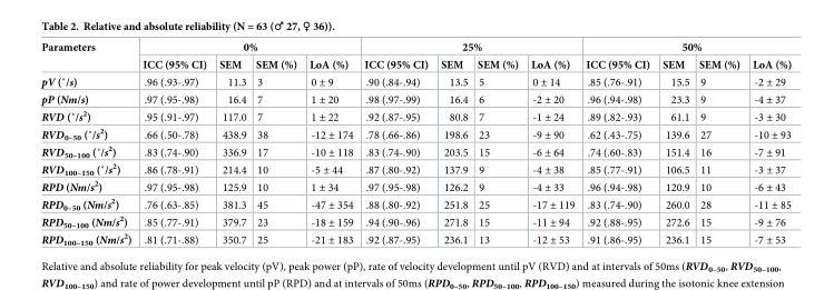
<table><thead><tr><td rowspan="2">Parameters</td><td colspan="4">0%</td><td colspan="4">25%</td><td colspan="4">50%</td></tr><tr><td>ICC (95% CI)</td><td>SEM</td><td>SEM (%)</td><td>LoA (%)</td><td>ICC (95% CI)</td><td>SEM</td><td>SEM (%)</td><td>LoA (%)</td><td>ICC (95% CI)</td><td>SEM</td><td>SEM (%)</td><td>LoA (%)</td></tr></thead><tbody><tr><td>pV (˚/s)</td><td>.96 (.93-.97)</td><td>11.3</td><td>3</td><td>0 ± 9</td><td>.90 (.84-.94)</td><td>13.5</td><td>5</td><td>0 ± 14</td><td>.85 (.76-.91)</td><td>15.5</td><td>9</td><td>-2 ± 29</td></tr><tr><td>pP (Nm/s)</td><td>.97 (.95-.98)</td><td>16.4</td><td>7</td><td>1 ± 20</td><td>.98 (.97-.99)</td><td>16.4</td><td>6</td><td>-2 ± 20</td><td>.96 (.94-.98)</td><td>23.3</td><td>9</td><td>-4 ± 37</td></tr><tr><td>RVD (˚/s2)</td><td>.95 (.91-.97)</td><td>117.0</td><td>7</td><td>1 ± 22</td><td>.92 (.87-.95)</td><td>80.8</td><td>7</td><td>-1 ± 24</td><td>.89 (.82-.93)</td><td>61.1</td><td>9</td><td>-3 ± 30</td></tr><tr><td>RVD0–50 (˚/s2)</td><td>.66 (.50-.78)</td><td>438.9</td><td>38</td><td>-12 ± 174</td><td>.78 (.66-.86)</td><td>198.6</td><td>23</td><td>-9 ± 90</td><td>.62 (.43-.75)</td><td>139.6</td><td>27</td><td>-10 ± 93</td></tr><tr><td>RVD50–100 (˚/s2)</td><td>.83 (.74-.90)</td><td>336.9</td><td>17</td><td>-10 ± 118</td><td>.83 (.74-.90)</td><td>203.5</td><td>15</td><td>-6 ± 64</td><td>.74 (.60-.83)</td><td>151.4</td><td>16</td><td>-7 ± 91</td></tr><tr><td>RVD100–150 (˚/s2)</td><td>.86 (.78-.91)</td><td>214.4</td><td>10</td><td>-5 ± 44</td><td>.87 (.80-.92)</td><td>137.9</td><td>9</td><td>-4 ± 38</td><td>.85 (.77-.91)</td><td>106.5</td><td>11</td><td>-3 ± 37</td></tr><tr><td>RPD (Nm/s<sup>2</sup>)</td><td>.97 (.95-.98)</td><td>125.9</td><td>10</td><td>1 ± 34</td><td>.97 (.95-.98)</td><td>126.2</td><td>9</td><td>-4 ± 33</td><td>.96 (.94-.98)</td><td>120.9</td><td>10</td><td>-6 ± 43</td></tr><tr><td>RPD<sub>0–50</sub> (Nm/s<sup>2</sup>)</td><td>.76 (.63-.85)</td><td>381.3</td><td>45</td><td>-47 ± 354</td><td>.88 (.80-.92)</td><td>251.8</td><td>25</td><td>-17 ± 119</td><td>.83 (.74-.90)</td><td>260.0</td><td>28</td><td>-11 ± 85</td></tr><tr><td>RPD<sub>50–100</sub> (Nm/s<sup>2</sup>)</td><td>.85 (.77-.91)</td><td>379.7</td><td>23</td><td>-18 ± 159</td><td>.94 (.90-.96)</td><td>271.8</td><td>15</td><td>-11 ± 94</td><td>.92 (.88-.95)</td><td>272.6</td><td>15</td><td>-9 ± 76</td></tr><tr><td>RPD<sub>100–150</sub> (Nm/s<sup>2</sup>)</td><td>.81 (.71-.88)</td><td>350.7</td><td>25</td><td>-21 ± 183</td><td>.92 (.87-.95)</td><td>236.1</td><td>13</td><td>-12 ± 53</td><td>.91 (.86-.95)</td><td>236.1</td><td>15</td><td>-7 ± 53</td></tr></tbody></table>